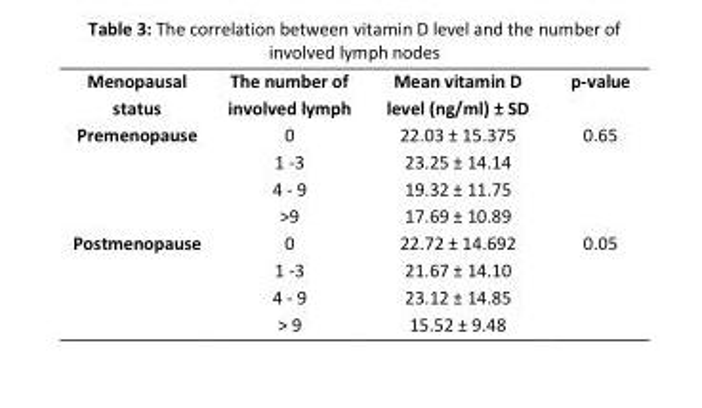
<table><tbody><tr><td>Menopausal status</td><td>The number of involved lymph</td><td>Mean vitamin D level (ng/ml) ± SD</td><td>p-value</td></tr><tr><td rowspan="4">Premenopause</td><td>0</td><td>22.03 ± 15.375</td><td rowspan="4">0.65</td></tr><tr><td>1 -3</td><td>23.25 ± 14.14</td></tr><tr><td>4 - 9</td><td>19.32 ± 11.75</td></tr><tr><td>&gt;9</td><td>17.69 ± 10.89</td></tr><tr><td rowspan="4">Postmenopause</td><td>0</td><td>22.72 ± 14.692</td><td rowspan="4">0.05</td></tr><tr><td>1 -3</td><td>21.67 ± 14.10</td></tr><tr><td>4 - 9</td><td>23.12 ± 14.85</td></tr><tr><td>&gt; 9</td><td>15.52 ± 9.48</td></tr></tbody></table>